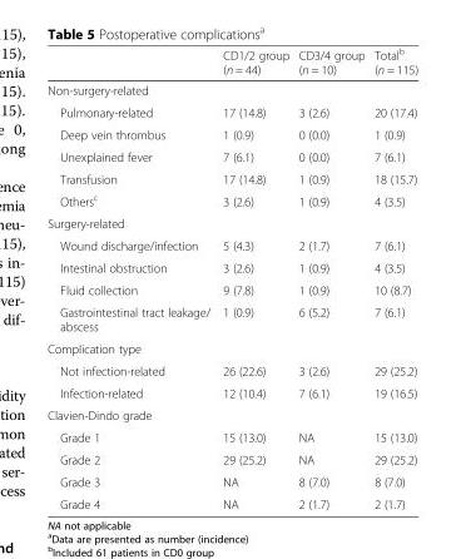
<table><thead><tr><td></td><td>CD1/2 group (n = 44)</td><td>CD3/4 group (n = 10)</td><td>Total<sup>b</sup> (n = 115)</td></tr></thead><tbody><tr><td colspan="4">Non-surgery-related</td></tr><tr><td>Pulmonary-related</td><td>17 (14.8)</td><td>3 (2.6)</td><td>20 (17.4)</td></tr><tr><td>Deep vein thrombus</td><td>1 (0.9)</td><td>0 (0.0)</td><td>1 (0.9)</td></tr><tr><td>Unexplained fever</td><td>7 (6.1)</td><td>0 (0.0)</td><td>7 (6.1)</td></tr><tr><td>Transfusion</td><td>17 (14.8)</td><td>1 (0.9)</td><td>18 (15.7)</td></tr><tr><td>Others<sup>c</sup></td><td>3 (2.6)</td><td>1 (0.9)</td><td>4 (3.5)</td></tr><tr><td colspan="4">Surgery-related</td></tr><tr><td>Wound discharge/infection</td><td>5 (4.3)</td><td>2 (1.7)</td><td>7 (6.1)</td></tr><tr><td>Intestinal obstruction</td><td>3 (2.6)</td><td>1 (0.9)</td><td>4 (3.5)</td></tr><tr><td>Fluid collection</td><td>9 (7.8)</td><td>1 (0.9)</td><td>10 (8.7)</td></tr><tr><td>Gastrointestinal tract leakage/ abscess</td><td>1 (0.9)</td><td>6 (5.2)</td><td>7 (6.1)</td></tr><tr><td colspan="4">Complication type</td></tr><tr><td>Not infection-related</td><td>26 (22.6)</td><td>3 (2.6)</td><td>29 (25.2)</td></tr><tr><td>Infection-related</td><td>12 (10.4)</td><td>7 (6.1)</td><td>19 (16.5)</td></tr><tr><td colspan="4">Clavien-Dindo grade</td></tr><tr><td>Grade 1</td><td>15 (13.0)</td><td>NA</td><td>15 (13.0)</td></tr><tr><td>Grade 2</td><td>29 (25.2)</td><td>NA</td><td>29 (25.2)</td></tr><tr><td>Grade 3</td><td>NA</td><td>8 (7.0)</td><td>8 (7.0)</td></tr><tr><td>Grade 4</td><td>NA</td><td>2 (1.7)</td><td>2 (1.7)</td></tr></tbody></table>